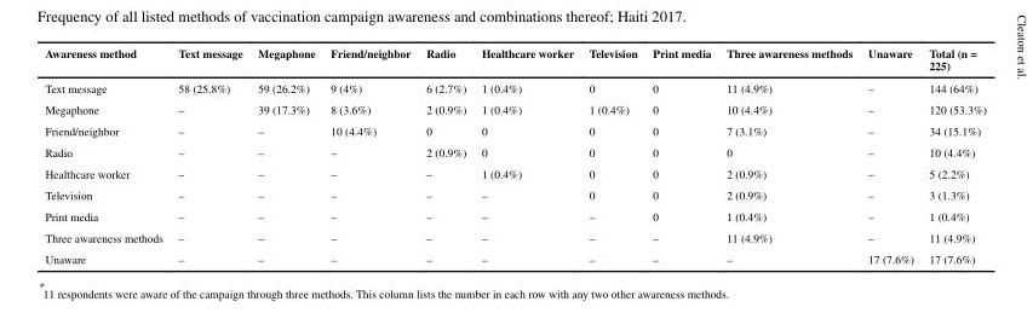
<table><thead><tr><td>Awareness method</td><td>Text message</td><td>Megaphone</td><td>Friend/neighbor</td><td>Radio</td><td>Healthcare worker</td><td>Television</td><td>Print media</td><td>Three awareness methods</td><td>Unaware</td><td>Total (n = 225)</td></tr></thead><tbody><tr><td>Text message</td><td>58 (25.8%)</td><td>59 (26.2%)</td><td>9 (4%)</td><td>6 (2.7%)</td><td>1 (0.4%)</td><td>0</td><td>0</td><td>11 (4.9%)</td><td>–</td><td>144 (64%)</td></tr><tr><td>Megaphone</td><td>–</td><td>39 (17.3%)</td><td>8 (3.6%)</td><td>2 (0.9%)</td><td>1 (0.4%)</td><td>1 (0.4%)</td><td>0</td><td>10 (4.4%)</td><td>–</td><td>120 (53.3%)</td></tr><tr><td>Friend/neighbor</td><td>–</td><td>–</td><td>10 (4.4%)</td><td>0</td><td>0</td><td>0</td><td>0</td><td>7 (3.1%)</td><td>–</td><td>34 (15.1%)</td></tr><tr><td>Radio</td><td>–</td><td>–</td><td>–</td><td>2 (0.9%)</td><td>0</td><td>0</td><td>0</td><td>0</td><td>–</td><td>10 (4.4%)</td></tr><tr><td>Healthcare worker</td><td>–</td><td>–</td><td>–</td><td>–</td><td>1 (0.4%)</td><td>0</td><td>0</td><td>2 (0.9%)</td><td>–</td><td>5 (2.2%)</td></tr><tr><td>Television</td><td>–</td><td>–</td><td>–</td><td>–</td><td>–</td><td>0</td><td>0</td><td>2 (0.9%)</td><td>–</td><td>3 (1.3%)</td></tr><tr><td>Print media</td><td>–</td><td>–</td><td>–</td><td>–</td><td>–</td><td>–</td><td>0</td><td>1 (0.4%)</td><td>–</td><td>1 (0.4%)</td></tr><tr><td>Three awareness methods</td><td>–</td><td>–</td><td>–</td><td>–</td><td>–</td><td>–</td><td>–</td><td>11 (4.9%)</td><td>–</td><td>11 (4.9%)</td></tr><tr><td>Unaware</td><td>–</td><td>–</td><td>–</td><td>–</td><td>–</td><td>–</td><td>–</td><td>–</td><td>17 (7.6%)</td><td>17 (7.6%)</td></tr></tbody></table>